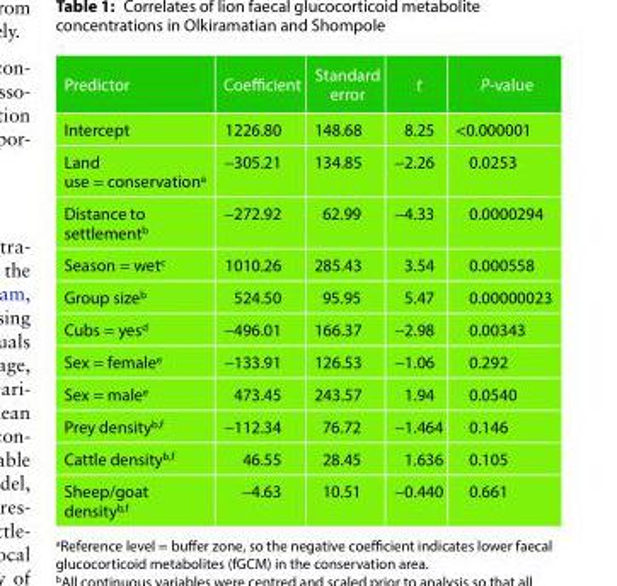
<table><thead><tr><td>Predictor</td><td>Coefficient</td><td>Standard error</td><td>t</td><td>P-value</td></tr></thead><tbody><tr><td>Intercept</td><td>1226.80</td><td>148.68</td><td>8.25</td><td>&lt;0.000001</td></tr><tr><td>Land use = conservation<sup>a</sup></td><td>−305.21</td><td>134.85</td><td>−2.26</td><td>0.0253</td></tr><tr><td>Distance to settlement<sup>b</sup></td><td>−272.92</td><td>62.99</td><td>−4.33</td><td>0.0000294</td></tr><tr><td>Season = wet<sup>c</sup></td><td>1010.26</td><td>285.43</td><td>3.54</td><td>0.000558</td></tr><tr><td>Group size<sup>b</sup></td><td>524.50</td><td>95.95</td><td>5.47</td><td>0.00000023</td></tr><tr><td>Cubs = yes<sup>d</sup></td><td>−496.01</td><td>166.37</td><td>−2.98</td><td>0.00343</td></tr><tr><td>Sex = female<sup>e</sup></td><td>−133.91</td><td>126.53</td><td>−1.06</td><td>0.292</td></tr><tr><td>Sex = male<sup>e</sup></td><td>473.45</td><td>243.57</td><td>1.94</td><td>0.0540</td></tr><tr><td>Prey density<sup>b,f</sup></td><td>−112.34</td><td>76.72</td><td>−1.464</td><td>0.146</td></tr><tr><td>Cattle density<sup>b,f</sup></td><td>46.55</td><td>28.45</td><td>1.636</td><td>0.105</td></tr><tr><td>Sheep/goat density<sup>b,f</sup></td><td>−4.63</td><td>10.51</td><td>−0.440</td><td>0.661</td></tr></tbody></table>